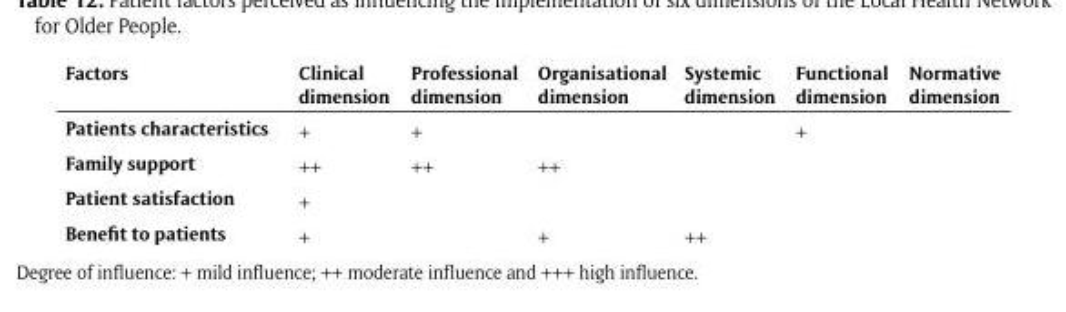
<table><thead><tr><td>Factors</td><td>Clinical dimension</td><td>Professional dimension</td><td>Organisational dimension</td><td>Systemic dimension</td><td>Functional dimension</td><td>Normative dimension</td></tr></thead><tbody><tr><td>Patients characteristics</td><td>+</td><td>+</td><td></td><td></td><td>+</td><td></td></tr><tr><td>Family support</td><td>++</td><td>++</td><td>++</td><td></td><td></td><td></td></tr><tr><td>Patient satisfaction</td><td>+</td><td></td><td></td><td></td><td></td><td></td></tr><tr><td>Benefit to patients</td><td>+</td><td></td><td>+</td><td>++</td><td></td><td></td></tr></tbody></table>